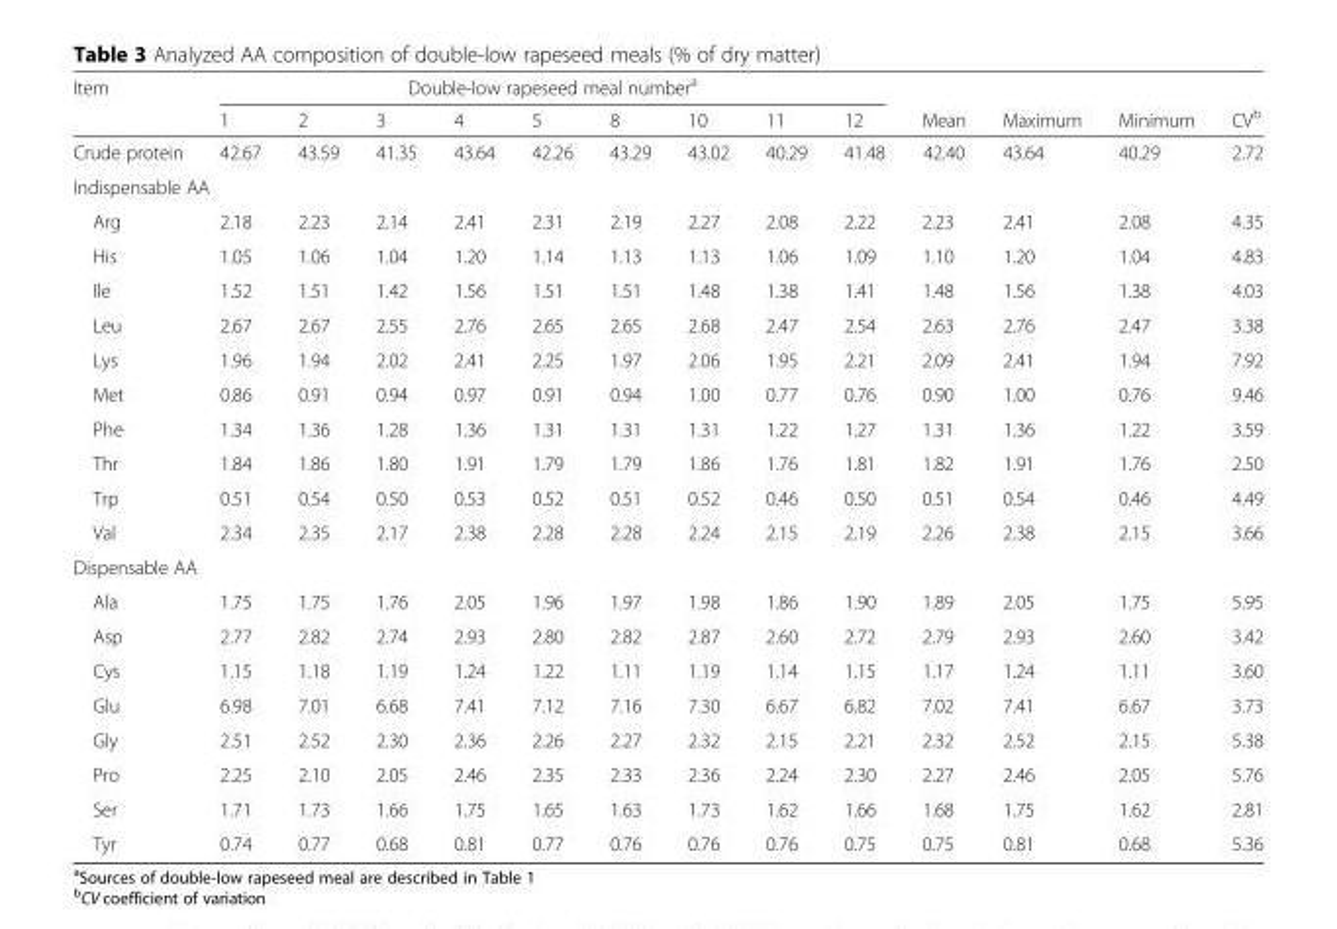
<table><thead><tr><td rowspan="2">Item</td><td colspan="9">Double-low rapeseed meal number<sup>a</sup></td><td rowspan="2">Mean</td><td rowspan="2">Maximum</td><td rowspan="2">Minimum</td><td rowspan="2">CV<sup>b</sup></td></tr><tr><td>1</td><td>2</td><td>3</td><td>4</td><td>5</td><td>8</td><td>10</td><td>11</td><td>12</td></tr></thead><tbody><tr><td>Crude protein</td><td>42.67</td><td>43.59</td><td>41.35</td><td>43.64</td><td>42.26</td><td>43.29</td><td>43.02</td><td>40.29</td><td>41.48</td><td>42.40</td><td>43.64</td><td>40.29</td><td>2.72</td></tr><tr><td colspan="14">Indispensable AA</td></tr><tr><td>Arg</td><td>2.18</td><td>2.23</td><td>2.14</td><td>2.41</td><td>2.31</td><td>2.19</td><td>2.27</td><td>2.08</td><td>2.22</td><td>2.23</td><td>2.41</td><td>2.08</td><td>4.35</td></tr><tr><td>His</td><td>1.05</td><td>1.06</td><td>1.04</td><td>1.20</td><td>1.14</td><td>1.13</td><td>1.13</td><td>1.06</td><td>1.09</td><td>1.10</td><td>1.20</td><td>1.04</td><td>4.83</td></tr><tr><td>Ile</td><td>1.52</td><td>1.51</td><td>1.42</td><td>1.56</td><td>1.51</td><td>1.51</td><td>1.48</td><td>1.38</td><td>1.41</td><td>1.48</td><td>1.56</td><td>1.38</td><td>4.03</td></tr><tr><td>Leu</td><td>2.67</td><td>2.67</td><td>2.55</td><td>2.76</td><td>2.65</td><td>2.65</td><td>2.68</td><td>2.47</td><td>2.54</td><td>2.63</td><td>2.76</td><td>2.47</td><td>3.38</td></tr><tr><td>Lys</td><td>1.96</td><td>1.94</td><td>2.02</td><td>2.41</td><td>2.25</td><td>1.97</td><td>2.06</td><td>1.95</td><td>2.21</td><td>2.09</td><td>2.41</td><td>1.94</td><td>7.92</td></tr><tr><td>Met</td><td>0.86</td><td>0.91</td><td>0.94</td><td>0.97</td><td>0.91</td><td>0.94</td><td>1.00</td><td>0.77</td><td>0.76</td><td>0.90</td><td>1.00</td><td>0.76</td><td>9.46</td></tr><tr><td>Phe</td><td>1.34</td><td>1.36</td><td>1.28</td><td>1.36</td><td>1.31</td><td>1.31</td><td>1.31</td><td>1.22</td><td>1.27</td><td>1.31</td><td>1.36</td><td>1.22</td><td>3.59</td></tr><tr><td>Thr</td><td>1.84</td><td>1.86</td><td>1.80</td><td>1.91</td><td>1.79</td><td>1.79</td><td>1.86</td><td>1.76</td><td>1.81</td><td>1.82</td><td>1.91</td><td>1.76</td><td>2.50</td></tr><tr><td>Trp</td><td>0.51</td><td>0.54</td><td>0.50</td><td>0.53</td><td>0.52</td><td>0.51</td><td>0.52</td><td>0.46</td><td>0.50</td><td>0.51</td><td>0.54</td><td>0.46</td><td>4.49</td></tr><tr><td>Val</td><td>2.34</td><td>2.35</td><td>2.17</td><td>2.38</td><td>2.28</td><td>2.28</td><td>2.24</td><td>2.15</td><td>2.19</td><td>2.26</td><td>2.38</td><td>2.15</td><td>3.66</td></tr><tr><td colspan="14">Dispensable AA</td></tr><tr><td>Ala</td><td>1.75</td><td>1.75</td><td>1.76</td><td>2.05</td><td>1.96</td><td>1.97</td><td>1.98</td><td>1.86</td><td>1.90</td><td>1.89</td><td>2.05</td><td>1.75</td><td>5.95</td></tr><tr><td>Asp</td><td>2.77</td><td>2.82</td><td>2.74</td><td>2.93</td><td>2.80</td><td>2.82</td><td>2.87</td><td>2.60</td><td>2.72</td><td>2.79</td><td>2.93</td><td>2.60</td><td>3.42</td></tr><tr><td>Cys</td><td>1.15</td><td>1.18</td><td>1.19</td><td>1.24</td><td>1.22</td><td>1.11</td><td>1.19</td><td>1.14</td><td>1.15</td><td>1.17</td><td>1.24</td><td>1.11</td><td>3.60</td></tr><tr><td>Glu</td><td>6.98</td><td>7.01</td><td>6.68</td><td>7.41</td><td>7.12</td><td>7.16</td><td>7.30</td><td>6.67</td><td>6.82</td><td>7.02</td><td>7.41</td><td>6.67</td><td>3.73</td></tr><tr><td>Gly</td><td>2.51</td><td>2.52</td><td>2.30</td><td>2.36</td><td>2.26</td><td>2.27</td><td>2.32</td><td>2.15</td><td>2.21</td><td>2.32</td><td>2.52</td><td>2.15</td><td>5.38</td></tr><tr><td>Pro</td><td>2.25</td><td>2.10</td><td>2.05</td><td>2.46</td><td>2.35</td><td>2.33</td><td>2.36</td><td>2.24</td><td>2.30</td><td>2.27</td><td>2.46</td><td>2.05</td><td>5.76</td></tr><tr><td>Ser</td><td>1.71</td><td>1.73</td><td>1.66</td><td>1.75</td><td>1.65</td><td>1.63</td><td>1.73</td><td>1.62</td><td>1.66</td><td>1.68</td><td>1.75</td><td>1.62</td><td>2.81</td></tr><tr><td>Tyr</td><td>0.74</td><td>0.77</td><td>0.68</td><td>0.81</td><td>0.77</td><td>0.76</td><td>0.76</td><td>0.76</td><td>0.75</td><td>0.75</td><td>0.81</td><td>0.68</td><td>5.36</td></tr></tbody></table>